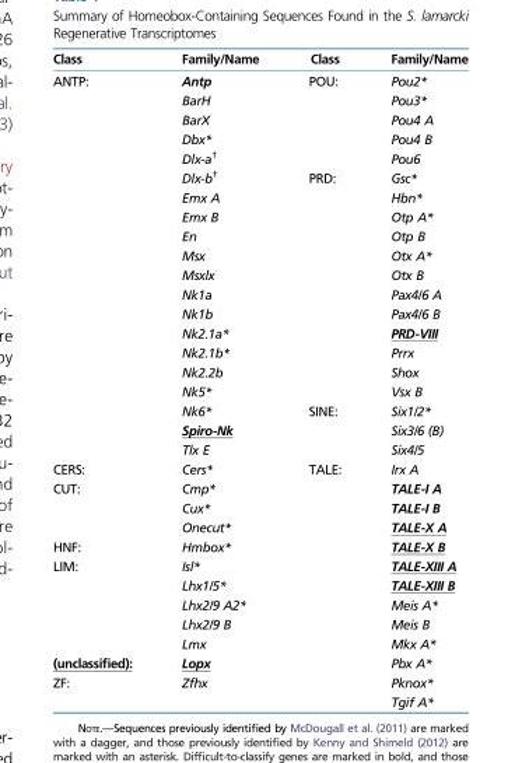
<table><thead><tr><td>Class</td><td>Family/Name</td><td>Class</td><td>Family/Name</td></tr></thead><tbody><tr><td rowspan="20">ANTP:</td><td>Antp</td><td rowspan="5">POU:</td><td>Pou2*</td></tr><tr><td>BarH</td><td>Pou3*</td></tr><tr><td>BarX</td><td>Pou4 A</td></tr><tr><td>Dbx*</td><td>Pou4 B</td></tr><tr><td>Dlx-a<sup>†</sup></td><td>Pou6</td></tr><tr><td>Dlx-b<sup>†</sup></td><td rowspan="12">PRD:</td><td>Gsc*</td></tr><tr><td>Emx A</td><td>Hbn*</td></tr><tr><td>Emx B</td><td>Otp A*</td></tr><tr><td>En</td><td>Otp B</td></tr><tr><td>Msx</td><td>Otx A*</td></tr><tr><td>Msxlx</td><td>Otx B</td></tr><tr><td>Nk1a</td><td>Pax4/6 A</td></tr><tr><td>Nk1b</td><td>Pax4/6 B</td></tr><tr><td>Nk2.1a*</td><td>PRD-VIII</td></tr><tr><td>Nk2.1b*</td><td>Prrx</td></tr><tr><td>Nk2.2b</td><td>Shox</td></tr><tr><td>Nk5*</td><td>Vsx B</td></tr><tr><td>Nk6*</td><td rowspan="3">SINE:</td><td>Six1/2*</td></tr><tr><td>Spiro-Nk</td><td>Six3/6 (B)</td></tr><tr><td>Tlx E</td><td>Six4/5</td></tr><tr><td>CERS:</td><td>Cers*</td><td rowspan="13">TALE:</td><td>Irx A</td></tr><tr><td rowspan="3">CUT:</td><td>Cmp*</td><td>TALE-I A</td></tr><tr><td>Cux*</td><td>TALE-I B</td></tr><tr><td>Onecut*</td><td>TALE-X A</td></tr><tr><td>HNF:</td><td>Hmbox*</td><td>TALE-X B</td></tr><tr><td rowspan="5">LIM:</td><td>Isl*</td><td>TALE-XIII A</td></tr><tr><td>Lhx1/5*</td><td>TALE-XIII B</td></tr><tr><td>Lhx2/9 A2*</td><td>Meis A*</td></tr><tr><td>Lhx2/9 B</td><td>Meis B</td></tr><tr><td>Lmx</td><td>Mkx A*</td></tr><tr><td>(unclassified):</td><td>Lopx</td><td>Pbx A*</td></tr><tr><td>ZF:</td><td>Zfhx</td><td>Pknox*</td></tr><tr><td colspan="2"></td><td>Tgif A*</td></tr></tbody></table>